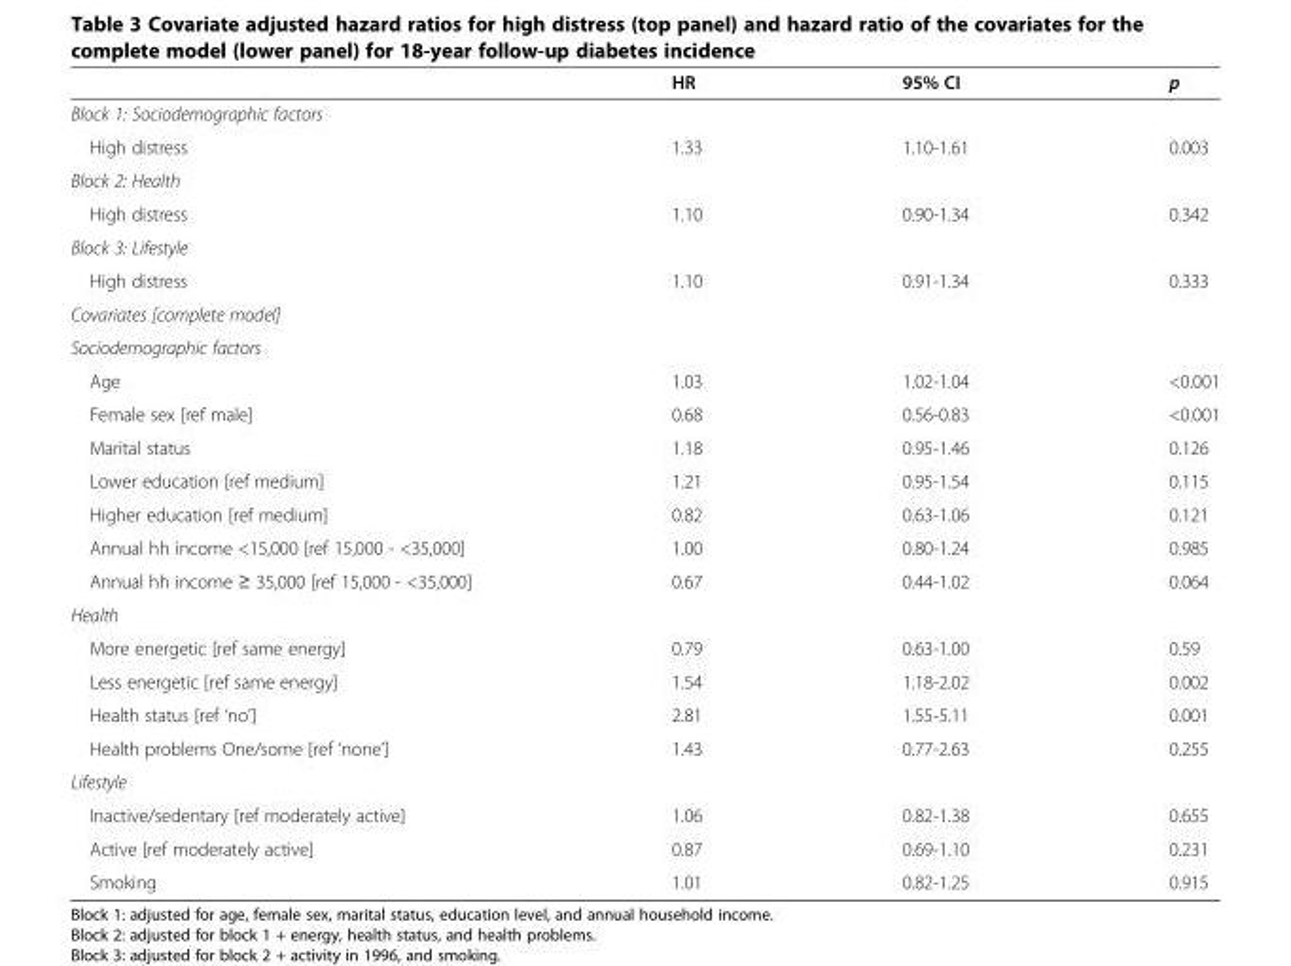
<table><thead><tr><td></td><td>HR</td><td>95% CI</td><td>p</td></tr></thead><tbody><tr><td colspan="4">Block 1: Sociodemographic factors</td></tr><tr><td>High distress</td><td>1.33</td><td>1.10-1.61</td><td>0.003</td></tr><tr><td colspan="4">Block 2: Health</td></tr><tr><td>High distress</td><td>1.10</td><td>0.90-1.34</td><td>0.342</td></tr><tr><td colspan="4">Block 3: Lifestyle</td></tr><tr><td>High distress</td><td>1.10</td><td>0.91-1.34</td><td>0.333</td></tr><tr><td colspan="4">Covariates [complete model]</td></tr><tr><td colspan="4">Sociodemographic factors</td></tr><tr><td>Age</td><td>1.03</td><td>1.02-1.04</td><td>&lt;0.001</td></tr><tr><td>Female sex [ref male]</td><td>0.68</td><td>0.56-0.83</td><td>&lt;0.001</td></tr><tr><td>Marital status</td><td>1.18</td><td>0.95-1.46</td><td>0.126</td></tr><tr><td>Lower education [ref medium]</td><td>1.21</td><td>0.95-1.54</td><td>0.115</td></tr><tr><td>Higher education [ref medium]</td><td>0.82</td><td>0.63-1.06</td><td>0.121</td></tr><tr><td>Annual hh income &lt;15,000 [ref 15,000 - &lt;35,000]</td><td>1.00</td><td>0.80-1.24</td><td>0.985</td></tr><tr><td>Annual hh income ≥ 35,000 [ref 15,000 - &lt;35,000]</td><td>0.67</td><td>0.44-1.02</td><td>0.064</td></tr><tr><td colspan="4">Health</td></tr><tr><td>More energetic [ref same energy]</td><td>0.79</td><td>0.63-1.00</td><td>0.59</td></tr><tr><td>Less energetic [ref same energy]</td><td>1.54</td><td>1.18-2.02</td><td>0.002</td></tr><tr><td>Health status [ref ‘no’]</td><td>2.81</td><td>1.55-5.11</td><td>0.001</td></tr><tr><td>Health problems One/some [ref ‘none’]</td><td>1.43</td><td>0.77-2.63</td><td>0.255</td></tr><tr><td colspan="4">Lifestyle</td></tr><tr><td>Inactive/sedentary [ref moderately active]</td><td>1.06</td><td>0.82-1.38</td><td>0.655</td></tr><tr><td>Active [ref moderately active]</td><td>0.87</td><td>0.69-1.10</td><td>0.231</td></tr><tr><td>Smoking</td><td>1.01</td><td>0.82-1.25</td><td>0.915</td></tr></tbody></table>